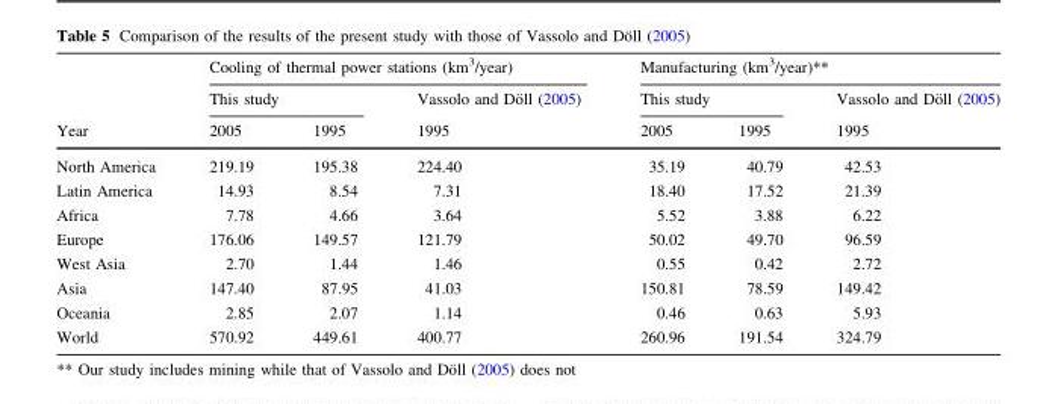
<table><thead><tr><td rowspan="3">Year</td><td colspan="3">Cooling of thermal power stations (km<sup>3</sup>/year)</td><td colspan="3">Manufacturing (km<sup>3</sup>/year)**</td></tr><tr><td colspan="2">This study</td><td rowspan="2">Vassolo and Do¨ll (2005) 1995</td><td colspan="2">This study</td><td rowspan="2">Vassolo and Do¨ll (2005) 1995</td></tr><tr><td>2005</td><td>1995</td><td>2005</td><td>1995</td></tr></thead><tbody><tr><td>North America</td><td>219.19</td><td>195.38</td><td>224.40</td><td>35.19</td><td>40.79</td><td>42.53</td></tr><tr><td>Latin America</td><td>14.93</td><td>8.54</td><td>7.31</td><td>18.40</td><td>17.52</td><td>21.39</td></tr><tr><td>Africa</td><td>7.78</td><td>4.66</td><td>3.64</td><td>5.52</td><td>3.88</td><td>6.22</td></tr><tr><td>Europe</td><td>176.06</td><td>149.57</td><td>121.79</td><td>50.02</td><td>49.70</td><td>96.59</td></tr><tr><td>West Asia</td><td>2.70</td><td>1.44</td><td>1.46</td><td>0.55</td><td>0.42</td><td>2.72</td></tr><tr><td>Asia</td><td>147.40</td><td>87.95</td><td>41.03</td><td>150.81</td><td>78.59</td><td>149.42</td></tr><tr><td>Oceania</td><td>2.85</td><td>2.07</td><td>1.14</td><td>0.46</td><td>0.63</td><td>5.93</td></tr><tr><td>World</td><td>570.92</td><td>449.61</td><td>400.77</td><td>260.96</td><td>191.54</td><td>324.79</td></tr></tbody></table>